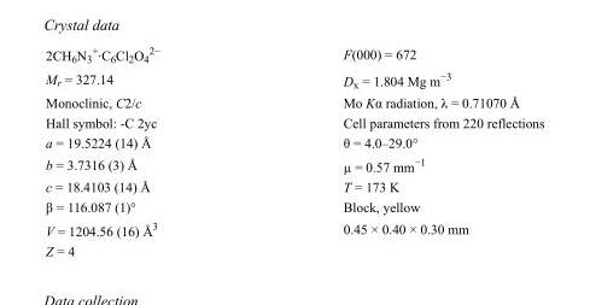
<table><tbody><tr><td>2CH<sub>6</sub>N<sub>3</sub> <sup>+</sup>·C<sub>6</sub>Cl<sub>2</sub>O<sub>4</sub> <sup>2−</sup></td><td>F(000) = 672</td></tr><tr><td>M<sub>r</sub> = 327.14</td><td>D<sub>x</sub> = 1.804 Mg m<sup>−3</sup></td></tr><tr><td>Monoclinic, C2/c</td><td>Mo Kα radiation, λ = 0.71070 Å</td></tr><tr><td>Hall symbol: -C 2yc</td><td>Cell parameters from 220 reflections</td></tr><tr><td>a = 19.5224 (14) Å</td><td>θ = 4.0–29.0°</td></tr><tr><td>b = 3.7316 (3) Å</td><td>µ = 0.57 mm<sup>−1</sup></td></tr><tr><td>c = 18.4103 (14) Å</td><td>T = 173 K</td></tr><tr><td>β = 116.087 (1)°</td><td>Block, yellow</td></tr><tr><td>V = 1204.56 (16) Å<sup>3</sup></td><td>0.45 × 0.40 × 0.30 mm</td></tr><tr><td>Z = 4</td><td></td></tr></tbody></table>